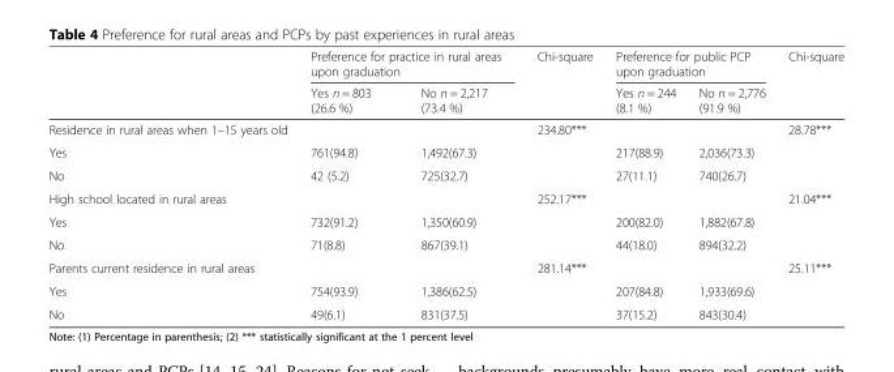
<table><thead><tr><td rowspan="2"></td><td colspan="2">Preference for practice in rural areas upon graduation</td><td rowspan="2">Chi-square</td><td colspan="2">Preference for public PCP upon graduation</td><td rowspan="2">Chi-square</td></tr><tr><td>Yes n = 803 (26.6 %)</td><td>No n = 2,217 (73.4 %)</td><td>Yes n = 244 (8.1 %)</td><td>No n = 2,776 (91.9 %)</td></tr></thead><tbody><tr><td>Residence in rural areas when 1–15 years old</td><td></td><td></td><td>234.80***</td><td></td><td></td><td>28.78***</td></tr><tr><td>Yes</td><td>761(94.8)</td><td>1,492(67.3)</td><td></td><td>217(88.9)</td><td>2,036(73.3)</td><td></td></tr><tr><td>No</td><td>42 (5.2)</td><td>725(32.7)</td><td></td><td>27(11.1)</td><td>740(26.7)</td><td></td></tr><tr><td>High school located in rural areas</td><td></td><td></td><td>252.17***</td><td></td><td></td><td>21.04***</td></tr><tr><td>Yes</td><td>732(91.2)</td><td>1,350(60.9)</td><td></td><td>200(82.0)</td><td>1,882(67.8)</td><td></td></tr><tr><td>No</td><td>71(8.8)</td><td>867(39.1)</td><td></td><td>44(18.0)</td><td>894(32.2)</td><td></td></tr><tr><td>Parents current residence in rural areas</td><td></td><td></td><td>281.14***</td><td></td><td></td><td>25.11***</td></tr><tr><td>Yes</td><td>754(93.9)</td><td>1,386(62.5)</td><td></td><td>207(84.8)</td><td>1,933(69.6)</td><td></td></tr><tr><td>No</td><td>49(6.1)</td><td>831(37.5)</td><td></td><td>37(15.2)</td><td>843(30.4)</td><td></td></tr></tbody></table>